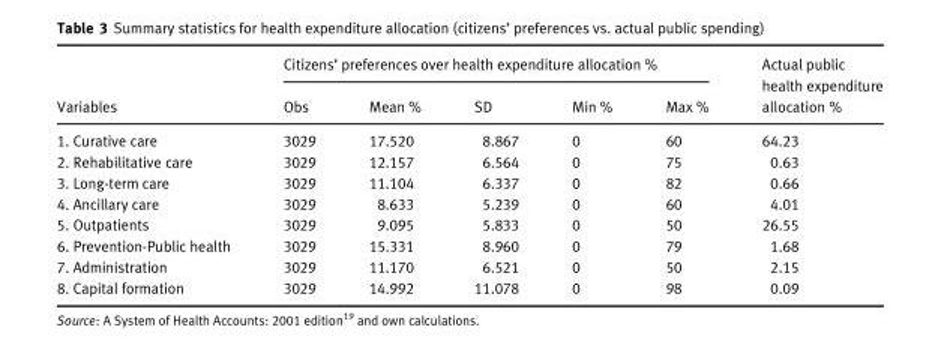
<table><thead><tr><td rowspan="2">Variables</td><td colspan="5">Citizens’ preferences over health expenditure allocation %</td><td rowspan="2">Actual public health expenditure allocation %</td></tr><tr><td>Obs</td><td>Mean %</td><td>SD</td><td>Min %</td><td>Max %</td></tr></thead><tbody><tr><td>1. Curative care</td><td>3029</td><td>17.520</td><td>8.867</td><td>0</td><td>60</td><td>64.23</td></tr><tr><td>2. Rehabilitative care</td><td>3029</td><td>12.157</td><td>6.564</td><td>0</td><td>75</td><td>0.63</td></tr><tr><td>3. Long-term care</td><td>3029</td><td>11.104</td><td>6.337</td><td>0</td><td>82</td><td>0.66</td></tr><tr><td>4. Ancillary care</td><td>3029</td><td>8.633</td><td>5.239</td><td>0</td><td>60</td><td>4.01</td></tr><tr><td>5. Outpatients</td><td>3029</td><td>9.095</td><td>5.833</td><td>0</td><td>50</td><td>26.55</td></tr><tr><td>6. Prevention-Public health</td><td>3029</td><td>15.331</td><td>8.960</td><td>0</td><td>79</td><td>1.68</td></tr><tr><td>7. Administration</td><td>3029</td><td>11.170</td><td>6.521</td><td>0</td><td>50</td><td>2.15</td></tr><tr><td>8. Capital formation</td><td>3029</td><td>14.992</td><td>11.078</td><td>0</td><td>98</td><td>0.09</td></tr></tbody></table>